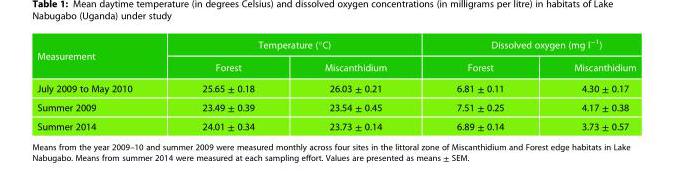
<table><thead><tr><td rowspan="2">Measurement</td><td colspan="2">Temperature (°C)</td><td colspan="2">Dissolved oxygen (mg l<sup>−1</sup>)</td></tr><tr><td>Forest</td><td>Miscanthidium</td><td>Forest</td><td>Miscanthidium</td></tr></thead><tbody><tr><td>July 2009 to May 2010</td><td>25.65 ± 0.18</td><td>26.03 ± 0.21</td><td>6.81 ± 0.11</td><td>4.30 ± 0.17</td></tr><tr><td>Summer 2009</td><td>23.49 ± 0.39</td><td>23.54 ± 0.45</td><td>7.51 ± 0.25</td><td>4.17 ± 0.38</td></tr><tr><td>Summer 2014</td><td>24.01 ± 0.34</td><td>23.73 ± 0.14</td><td>6.89 ± 0.14</td><td>3.73 ± 0.57</td></tr></tbody></table>